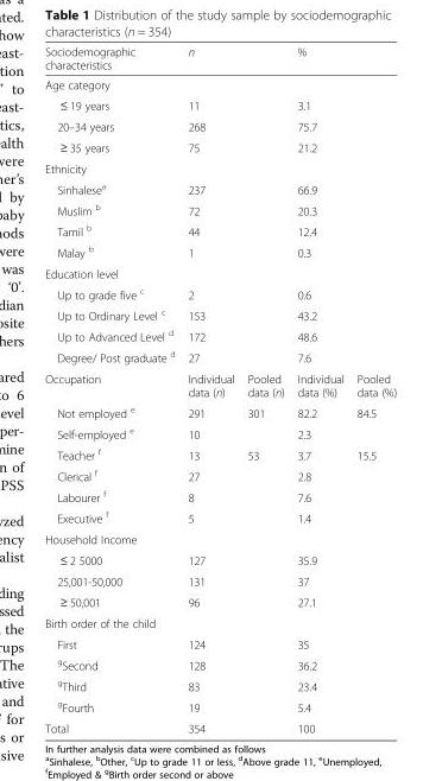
<table><thead><tr><td>Sociodemographic characteristics</td><td colspan="2">n</td><td colspan="2">%</td></tr></thead><tbody><tr><td colspan="5">Age category</td></tr><tr><td>≤ 19 years</td><td colspan="2">11</td><td colspan="2">3.1</td></tr><tr><td>20–34 years</td><td colspan="2">268</td><td colspan="2">75.7</td></tr><tr><td>≥ 35 years</td><td colspan="2">75</td><td colspan="2">21.2</td></tr><tr><td colspan="5">Ethnicity</td></tr><tr><td>Sinhalese<sup>a</sup></td><td colspan="2">237</td><td colspan="2">66.9</td></tr><tr><td>Muslim <sup>b</sup></td><td colspan="2">72</td><td colspan="2">20.3</td></tr><tr><td>Tamil <sup>b</sup></td><td colspan="2">44</td><td colspan="2">12.4</td></tr><tr><td>Malay <sup>b</sup></td><td colspan="2">1</td><td colspan="2">0.3</td></tr><tr><td colspan="5">Education level</td></tr><tr><td>Up to grade five <sup>c</sup></td><td colspan="2">2</td><td colspan="2">0.6</td></tr><tr><td>Up to Ordinary Level <sup>c</sup></td><td colspan="2">153</td><td colspan="2">43.2</td></tr><tr><td>Up to Advanced Level <sup>d</sup></td><td colspan="2">172</td><td colspan="2">48.6</td></tr><tr><td>Degree/ Post graduate <sup>d</sup></td><td colspan="2">27</td><td colspan="2">7.6</td></tr><tr><td>Occupation</td><td>Individual data (n)</td><td>Pooled data (n)</td><td>Individual data (%)</td><td>Pooled data (%)</td></tr><tr><td>Not employed <sup>e</sup></td><td>291</td><td rowspan="2">301</td><td>82.2</td><td rowspan="2">84.5</td></tr><tr><td>Self-employed <sup>e</sup></td><td>10</td><td>2.3</td></tr><tr><td>Teacher <sup>f</sup></td><td>13</td><td rowspan="4">53</td><td>3.7</td><td rowspan="4">15.5</td></tr><tr><td>Clerical <sup>f</sup></td><td>27</td><td>2.8</td></tr><tr><td>Labourer <sup>f</sup></td><td>8</td><td>7.6</td></tr><tr><td>Executive <sup>f</sup></td><td>5</td><td>1.4</td></tr><tr><td colspan="5">Household Income</td></tr><tr><td>≤ 2 5000</td><td colspan="2">127</td><td colspan="2">35.9</td></tr><tr><td>25,001-50,000</td><td colspan="2">131</td><td colspan="2">37</td></tr><tr><td>≥ 50,001</td><td colspan="2">96</td><td colspan="2">27.1</td></tr><tr><td colspan="5">Birth order of the child</td></tr><tr><td>First</td><td colspan="2">124</td><td colspan="2">35</td></tr><tr><td><sup>g</sup>Second</td><td colspan="2">128</td><td colspan="2">36.2</td></tr><tr><td><sup>g</sup>Third</td><td colspan="2">83</td><td colspan="2">23.4</td></tr><tr><td><sup>g</sup>Fourth</td><td colspan="2">19</td><td colspan="2">5.4</td></tr><tr><td>Total</td><td colspan="2">354</td><td colspan="2">100</td></tr></tbody></table>